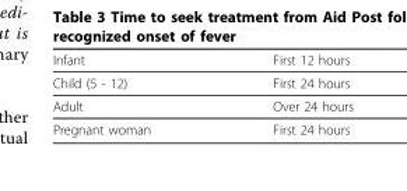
<table><thead><tr><td>Infant</td><td>First 12 hours</td></tr></thead><tbody><tr><td>Child (5 - 12)</td><td>First 24 hours</td></tr><tr><td>Adult</td><td>Over 24 hours</td></tr><tr><td>Pregnant woman</td><td>First 24 hours</td></tr></tbody></table>